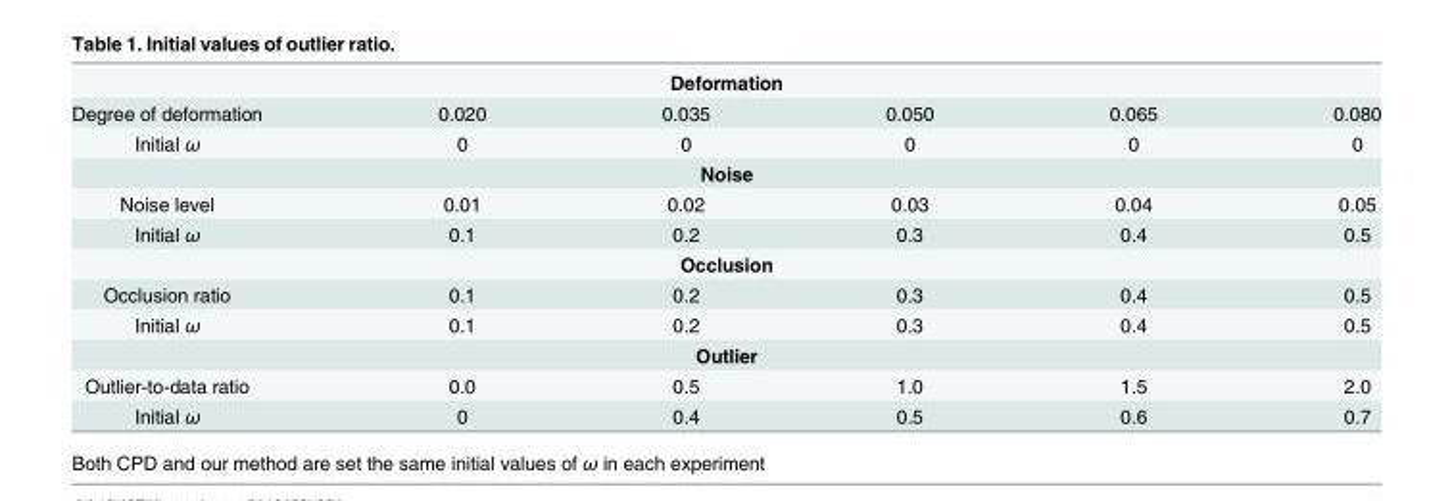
<table><tbody><tr><td colspan="6">Deformation</td></tr><tr><td>Degree of deformation</td><td>0.020</td><td>0.035</td><td>0.050</td><td>0.065</td><td>0.080</td></tr><tr><td>Initial ω</td><td>0</td><td>0</td><td>0</td><td>0</td><td>0</td></tr><tr><td colspan="6">Noise</td></tr><tr><td>Noise level</td><td>0.01</td><td>0.02</td><td>0.03</td><td>0.04</td><td>0.05</td></tr><tr><td>Initial ω</td><td>0.1</td><td>0.2</td><td>0.3</td><td>0.4</td><td>0.5</td></tr><tr><td colspan="6">Occlusion</td></tr><tr><td>Occlusion ratio</td><td>0.1</td><td>0.2</td><td>0.3</td><td>0.4</td><td>0.5</td></tr><tr><td>Initial ω</td><td>0.1</td><td>0.2</td><td>0.3</td><td>0.4</td><td>0.5</td></tr><tr><td colspan="6">Outlier</td></tr><tr><td>Outlier-to-data ratio</td><td>0.0</td><td>0.5</td><td>1.0</td><td>1.5</td><td>2.0</td></tr><tr><td>Initial ω</td><td>0</td><td>0.4</td><td>0.5</td><td>0.6</td><td>0.7</td></tr></tbody></table>